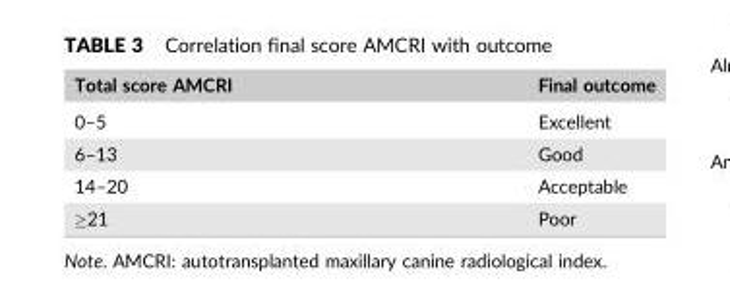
<table><thead><tr><td>Total score AMCRI</td><td>Final outcome</td></tr></thead><tbody><tr><td>0–5</td><td>Excellent</td></tr><tr><td>6–13</td><td>Good</td></tr><tr><td>14–20</td><td>Acceptable</td></tr><tr><td>≥21</td><td>Poor</td></tr></tbody></table>